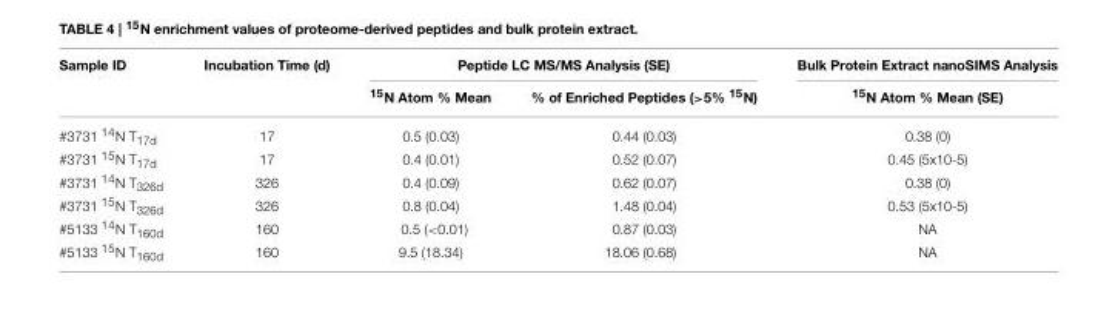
<table><thead><tr><td rowspan="2">Sample ID</td><td rowspan="2">Incubation Time (d)</td><td colspan="2">Peptide LC MS/MS Analysis (SE)</td><td rowspan="2">Bulk Protein Extract nanoSIMS Analysis <sup>15</sup>N Atom % Mean (SE)</td></tr><tr><td><sup>15</sup>N Atom % Mean</td><td>% of Enriched Peptides (&gt;5% <sup>15</sup>N)</td></tr></thead><tbody><tr><td>#3731 <sup>14</sup>N T<sub>17d</sub></td><td>17</td><td>0.5 (0.03)</td><td>0.44 (0.03)</td><td>0.38 (0)</td></tr><tr><td>#3731 <sup>15</sup>N T<sub>17d</sub></td><td>17</td><td>0.4 (0.01)</td><td>0.52 (0.07)</td><td>0.45 (5x10-5)</td></tr><tr><td>#3731 <sup>14</sup>N T<sub>326d</sub></td><td>326</td><td>0.4 (0.09)</td><td>0.62 (0.07)</td><td>0.38 (0)</td></tr><tr><td>#3731 <sup>15</sup>N T<sub>326d</sub></td><td>326</td><td>0.8 (0.04)</td><td>1.48 (0.04)</td><td>0.53 (5x10-5)</td></tr><tr><td>#5133 <sup>14</sup>N T<sub>160d</sub></td><td>160</td><td>0.5 (&lt;0.01)</td><td>0.87 (0.03)</td><td>NA</td></tr><tr><td>#5133 <sup>15</sup>N T<sub>160d</sub></td><td>160</td><td>9.5 (18.34)</td><td>18.06 (0.68)</td><td>NA</td></tr></tbody></table>